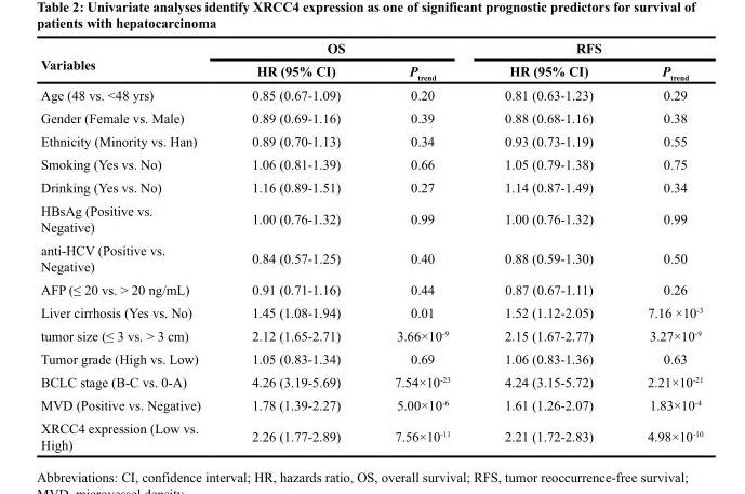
<table><thead><tr><td rowspan="2">Variables</td><td colspan="2">OS</td><td colspan="2">RFS</td></tr><tr><td>HR (95% CI)</td><td>P<sub>trend</sub></td><td>HR (95% CI)</td><td>P<sub>trend</sub></td></tr></thead><tbody><tr><td>Age (48 vs. &lt;48 yrs)</td><td>0.85 (0.67-1.09)</td><td>0.20</td><td>0.81 (0.63-1.23)</td><td>0.29</td></tr><tr><td>Gender (Female vs. Male)</td><td>0.89 (0.69-1.16)</td><td>0.39</td><td>0.88 (0.68-1.16)</td><td>0.38</td></tr><tr><td>Ethnicity (Minority vs. Han)</td><td>0.89 (0.70-1.13)</td><td>0.34</td><td>0.93 (0.73-1.19)</td><td>0.55</td></tr><tr><td>Smoking (Yes vs. No)</td><td>1.06 (0.81-1.39)</td><td>0.66</td><td>1.05 (0.79-1.38)</td><td>0.75</td></tr><tr><td>Drinking (Yes vs. No)</td><td>1.16 (0.89-1.51)</td><td>0.27</td><td>1.14 (0.87-1.49)</td><td>0.34</td></tr><tr><td>HBsAg (Positive vs. Negative)</td><td>1.00 (0.76-1.32)</td><td>0.99</td><td>1.00 (0.76-1.32)</td><td>0.99</td></tr><tr><td>anti-HCV (Positive vs. Negative)</td><td>0.84 (0.57-1.25)</td><td>0.40</td><td>0.88 (0.59-1.30)</td><td>0.50</td></tr><tr><td>AFP (≤ 20 vs. &gt; 20 ng/mL)</td><td>0.91 (0.71-1.16)</td><td>0.44</td><td>0.87 (0.67-1.11)</td><td>0.26</td></tr><tr><td>Liver cirrhosis (Yes vs. No)</td><td>1.45 (1.08-1.94)</td><td>0.01</td><td>1.52 (1.12-2.05)</td><td>7.16 ×10<sup>-3</sup></td></tr><tr><td>tumor size (≤ 3 vs. &gt; 3 cm)</td><td>2.12 (1.65-2.71)</td><td>3.66×10<sup>-9</sup></td><td>2.15 (1.67-2.77)</td><td>3.27×10<sup>-9</sup></td></tr><tr><td>Tumor grade (High vs. Low)</td><td>1.05 (0.83-1.34)</td><td>0.69</td><td>1.06 (0.83-1.36)</td><td>0.63</td></tr><tr><td>BCLC stage (B-C vs. 0-A)</td><td>4.26 (3.19-5.69)</td><td>7.54×10<sup>-23</sup></td><td>4.24 (3.15-5.72)</td><td>2.21×10<sup>-21</sup></td></tr><tr><td>MVD (Positive vs. Negative)</td><td>1.78 (1.39-2.27)</td><td>5.00×10<sup>-6</sup></td><td>1.61 (1.26-2.07)</td><td>1.83×10<sup>-4</sup></td></tr><tr><td>XRCC4 expression (Low vs. High)</td><td>2.26 (1.77-2.89)</td><td>7.56×10<sup>-11</sup></td><td>2.21 (1.72-2.83)</td><td>4.98×10<sup>-10</sup></td></tr></tbody></table>